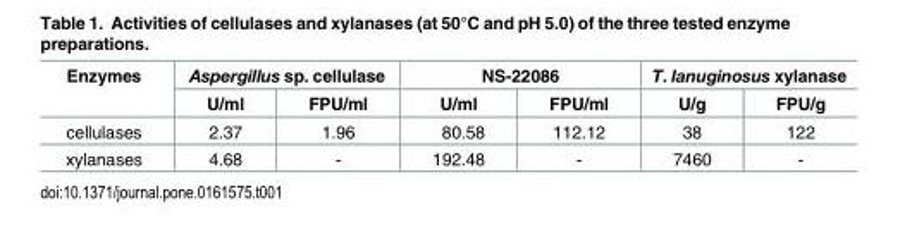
<table><thead><tr><td rowspan="2">Enzymes</td><td colspan="2">Aspergillus sp. cellulase</td><td colspan="2">NS-22086</td><td colspan="2">T. lanuginosus xylanase</td></tr><tr><td>U/ml</td><td>FPU/ml</td><td>U/ml</td><td>FPU/ml</td><td>U/g</td><td>FPU/g</td></tr></thead><tbody><tr><td>cellulases</td><td>2.37</td><td>1.96</td><td>80.58</td><td>112.12</td><td>38</td><td>122</td></tr><tr><td>xylanases</td><td>4.68</td><td>-</td><td>192.48</td><td>-</td><td>7460</td><td>-</td></tr></tbody></table>